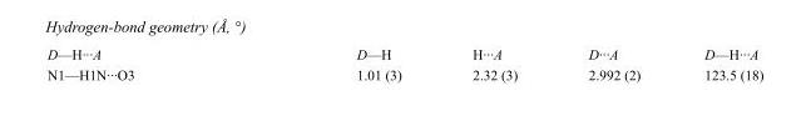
<table><tbody><tr><td>D—H···A</td><td>D—H</td><td>H···A</td><td>D···A</td><td>D—H···A</td></tr><tr><td>N1—H1N···O3</td><td>1.01 (3)</td><td>2.32 (3)</td><td>2.992 (2)</td><td>123.5 (18)</td></tr></tbody></table>